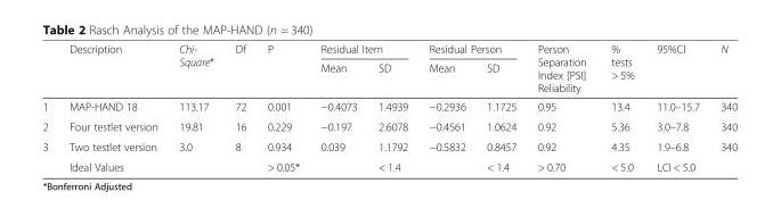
<table><thead><tr><td rowspan="2"></td><td rowspan="2">Description</td><td rowspan="2">Chi- Square*</td><td rowspan="2">Df</td><td rowspan="2">P</td><td colspan="2">Residual Item</td><td colspan="2">Residual Person</td><td rowspan="2">Person Separation Index [PSI] Reliability</td><td rowspan="2">% tests &gt; 5%</td><td rowspan="2">95%CI</td><td rowspan="2">N</td></tr><tr><td>Mean</td><td>SD</td><td>Mean</td><td>SD</td></tr></thead><tbody><tr><td>1</td><td>MAP-HAND 18</td><td>113.17</td><td>72</td><td>0.001</td><td>−0.4073</td><td>1.4939</td><td>−0.2936</td><td>1.1725</td><td>0.95</td><td>13.4</td><td>11.0–15.7</td><td>340</td></tr><tr><td>2</td><td>Four testlet version</td><td>19.81</td><td>16</td><td>0.229</td><td>−0.197</td><td>2.6078</td><td>−0.4561</td><td>1.0624</td><td>0.92</td><td>5.36</td><td>3.0–7.8</td><td>340</td></tr><tr><td rowspan="2">3</td><td>Two testlet version</td><td>3.0</td><td>8</td><td>0.934</td><td>0.039</td><td>1.1792</td><td>−0.5832</td><td>0.8457</td><td>0.92</td><td>4.35</td><td>1.9–6.8</td><td>340</td></tr><tr><td>Ideal Values</td><td></td><td></td><td>&gt; 0.05*</td><td></td><td>&lt; 1.4</td><td></td><td>&lt; 1.4</td><td>&gt; 0.70</td><td>&lt; 5.0</td><td>LCI &lt; 5.0</td><td></td></tr></tbody></table>